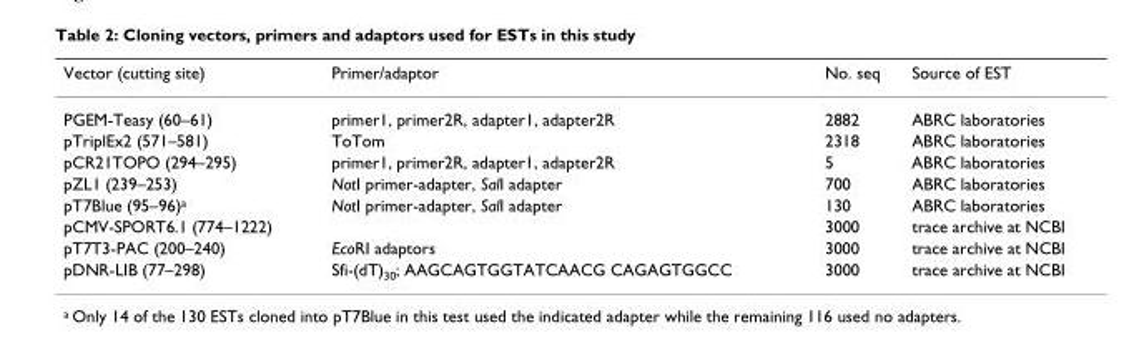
<table><thead><tr><td>Vector (cutting site)</td><td>Primer/adaptor</td><td>No. seq</td><td>Source of EST</td></tr></thead><tbody><tr><td>PGEM-Teasy (60–61)</td><td>primer1, primer2R, adapter1, adapter2R</td><td>2882</td><td>ABRC laboratories</td></tr><tr><td>pTriplEx2 (571–581)</td><td>ToTom</td><td>2318</td><td>ABRC laboratories</td></tr><tr><td>pCR21TOPO (294–295)</td><td>primer1, primer2R, adapter1, adapter2R</td><td>5</td><td>ABRC laboratories</td></tr><tr><td>pZL1 (239–253)</td><td>NotI primer-adapter, SalI adapter</td><td>700</td><td>ABRC laboratories</td></tr><tr><td>pT7Blue (95–96)<sup>a</sup></td><td>NotI primer-adapter, SalI adapter</td><td>130</td><td>ABRC laboratories</td></tr><tr><td>pCMV-SPORT6.1 (774–1222)</td><td></td><td>3000</td><td>trace archive at NCBI</td></tr><tr><td>pT7T3-PAC (200–240)</td><td>EcoRI adaptors</td><td>3000</td><td>trace archive at NCBI</td></tr><tr><td>pDNR-LIB (77–298)</td><td>Sfi-(dT)<sub>30</sub>; AAGCAGTGGTATCAACG CAGAGTGGCC</td><td>3000</td><td>trace archive at NCBI</td></tr></tbody></table>